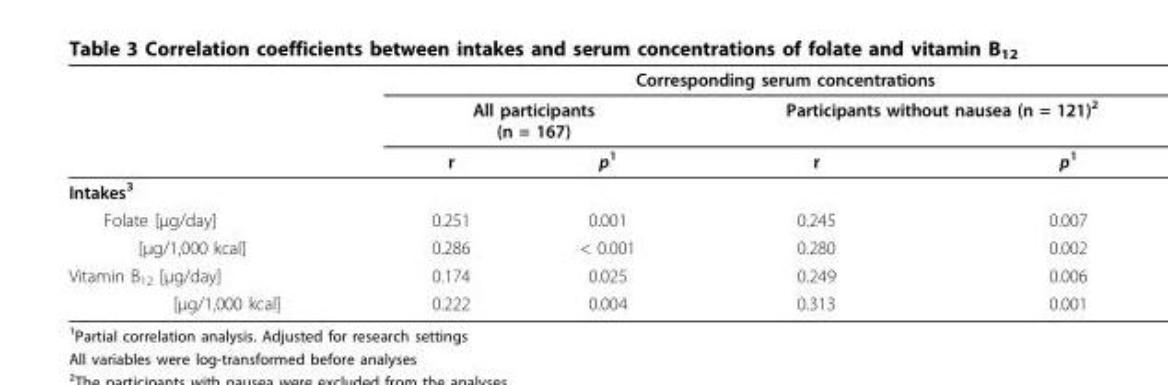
<table><thead><tr><td rowspan="3"></td><td colspan="4">Corresponding serum concentrations</td></tr><tr><td colspan="2">All participants (n = 167)</td><td colspan="2">Participants without nausea (n = 121)<sup>2</sup></td></tr><tr><td>r</td><td>p<sup>1</sup></td><td>r</td><td>p<sup>1</sup></td></tr></thead><tbody><tr><td colspan="5">Intakes<sup>3</sup></td></tr><tr><td>Folate [μg/day]</td><td>0.251</td><td>0.001</td><td>0.245</td><td>0.007</td></tr><tr><td>[μg/1,000 kcal]</td><td>0.286</td><td>&lt; 0.001</td><td>0.280</td><td>0.002</td></tr><tr><td>Vitamin B<sub>12</sub> [μg/day]</td><td>0.174</td><td>0.025</td><td>0.249</td><td>0.006</td></tr><tr><td>[μg/1,000 kcal]</td><td>0.222</td><td>0.004</td><td>0.313</td><td>0.001</td></tr></tbody></table>